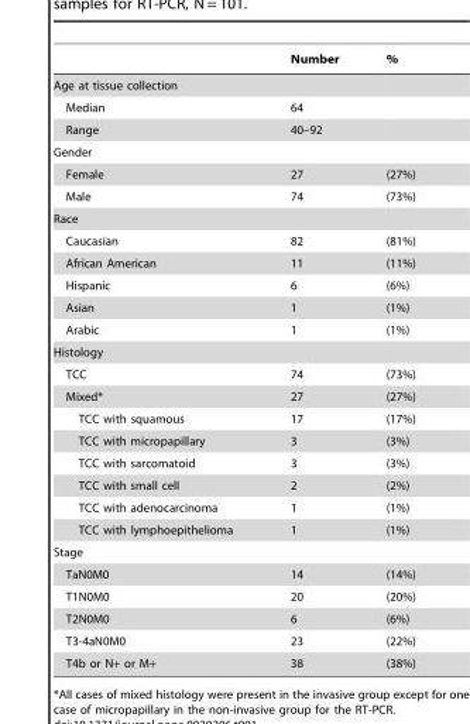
<table><thead><tr><td></td><td>Number</td><td>%</td></tr></thead><tbody><tr><td colspan="3">Age at tissue collection</td></tr><tr><td>Median</td><td>64</td><td></td></tr><tr><td>Range</td><td>40–92</td><td></td></tr><tr><td colspan="3">Gender</td></tr><tr><td>Female</td><td>27</td><td>(27%)</td></tr><tr><td>Male</td><td>74</td><td>(73%)</td></tr><tr><td colspan="3">Race</td></tr><tr><td>Caucasian</td><td>82</td><td>(81%)</td></tr><tr><td>African American</td><td>11</td><td>(11%)</td></tr><tr><td>Hispanic</td><td>6</td><td>(6%)</td></tr><tr><td>Asian</td><td>1</td><td>(1%)</td></tr><tr><td>Arabic</td><td>1</td><td>(1%)</td></tr><tr><td colspan="3">Histology</td></tr><tr><td>TCC</td><td>74</td><td>(73%)</td></tr><tr><td>Mixed*</td><td>27</td><td>(27%)</td></tr><tr><td>TCC with squamous</td><td>17</td><td>(17%)</td></tr><tr><td>TCC with micropapillary</td><td>3</td><td>(3%)</td></tr><tr><td>TCC with sarcomatoid</td><td>3</td><td>(3%)</td></tr><tr><td>TCC with small cell</td><td>2</td><td>(2%)</td></tr><tr><td>TCC with adenocarcinoma</td><td>1</td><td>(1%)</td></tr><tr><td>TCC with lymphoepithelioma</td><td>1</td><td>(1%)</td></tr><tr><td colspan="3">Stage</td></tr><tr><td>TaN0M0</td><td>14</td><td>(14%)</td></tr><tr><td>T1N0M0</td><td>20</td><td>(20%)</td></tr><tr><td>T2N0M0</td><td>6</td><td>(6%)</td></tr><tr><td>T3-4aN0M0</td><td>23</td><td>(22%)</td></tr><tr><td>T4b or N+ or M+</td><td>38</td><td>(38%)</td></tr></tbody></table>